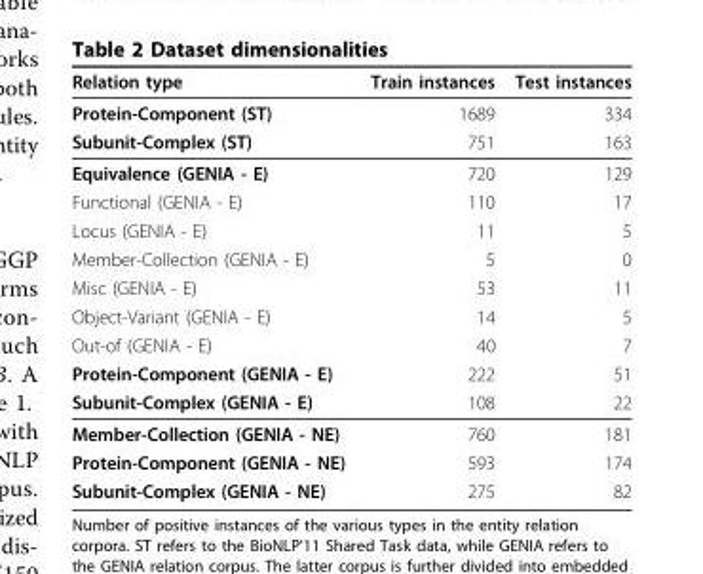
<table><thead><tr><td>Relation type</td><td>Train instances</td><td>Test instances</td></tr></thead><tbody><tr><td>Protein-Component (ST)</td><td>1689</td><td>334</td></tr><tr><td>Subunit-Complex (ST)</td><td>751</td><td>163</td></tr><tr><td>Equivalence (GENIA - E)</td><td>720</td><td>129</td></tr><tr><td>Functional (GENIA - E)</td><td>110</td><td>17</td></tr><tr><td>Locus (GENIA - E)</td><td>11</td><td>5</td></tr><tr><td>Member-Collection (GENIA - E)</td><td>5</td><td>0</td></tr><tr><td>Misc (GENIA - E)</td><td>53</td><td>11</td></tr><tr><td>Object-Variant (GENIA - E)</td><td>14</td><td>5</td></tr><tr><td>Out-of (GENIA - E)</td><td>40</td><td>7</td></tr><tr><td>Protein-Component (GENIA - E)</td><td>222</td><td>51</td></tr><tr><td>Subunit-Complex (GENIA - E)</td><td>108</td><td>22</td></tr><tr><td>Member-Collection (GENIA - NE)</td><td>760</td><td>181</td></tr><tr><td>Protein-Component (GENIA - NE)</td><td>593</td><td>174</td></tr><tr><td>Subunit-Complex (GENIA - NE)</td><td>275</td><td>82</td></tr></tbody></table>